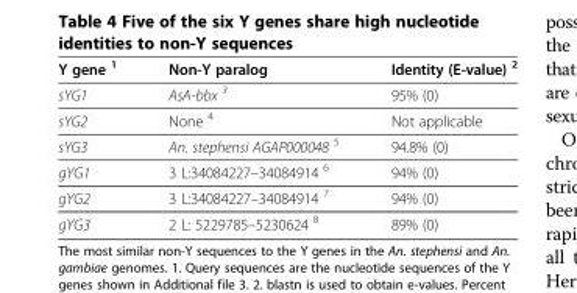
<table><thead><tr><td>Y gene <sup>1</sup></td><td>Non-Y paralog</td><td>Identity (E-value) <sup>2</sup></td></tr></thead><tbody><tr><td>sYG1</td><td>AsA-bbx <sup>3</sup></td><td>95% (0)</td></tr><tr><td>sYG2</td><td>None <sup>4</sup></td><td>Not applicable</td></tr><tr><td>sYG3</td><td>An. stephensi AGAP000048 <sup>5</sup></td><td>94.8% (0)</td></tr><tr><td>gYG1</td><td>3 L:34084227–34084914 <sup>6</sup></td><td>94% (0)</td></tr><tr><td>gYG2</td><td>3 L:34084227–34084914 <sup>7</sup></td><td>94% (0)</td></tr><tr><td>gYG3</td><td>2 L: 5229785–5230624 <sup>8</sup></td><td>89% (0)</td></tr></tbody></table>